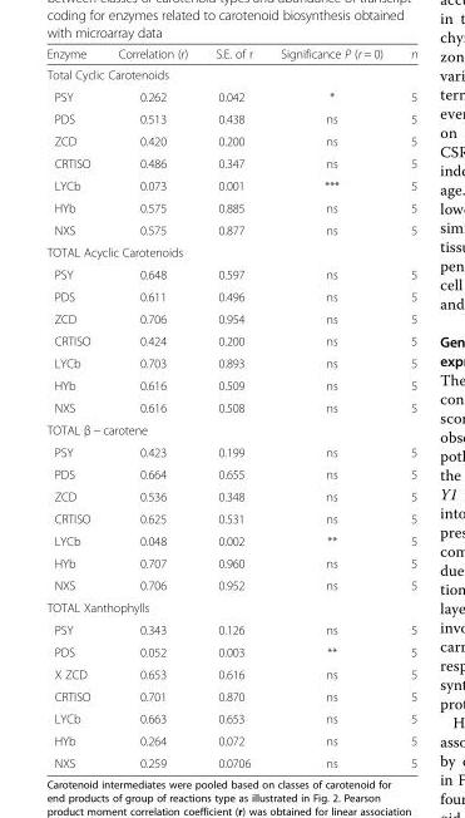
<table><thead><tr><td>Enzyme</td><td>Correlation (r)</td><td>S.E. of r</td><td>Significance P (r = 0)</td><td>n</td></tr></thead><tbody><tr><td colspan="5">Total Cyclic Carotenoids</td></tr><tr><td>PSY</td><td>0.262</td><td>0.042</td><td>*</td><td>5</td></tr><tr><td>PDS</td><td>0.513</td><td>0.438</td><td>ns</td><td>5</td></tr><tr><td>ZCD</td><td>0.420</td><td>0.200</td><td>ns</td><td>5</td></tr><tr><td>CRTISO</td><td>0.486</td><td>0.347</td><td>ns</td><td>5</td></tr><tr><td>LYCb</td><td>0.073</td><td>0.001</td><td>***</td><td>5</td></tr><tr><td>HYb</td><td>0.575</td><td>0.885</td><td>ns</td><td>5</td></tr><tr><td>NXS</td><td>0.575</td><td>0.877</td><td>ns</td><td>5</td></tr><tr><td colspan="5">TOTAL Acyclic Carotenoids</td></tr><tr><td>PSY</td><td>0.648</td><td>0.597</td><td>ns</td><td>5</td></tr><tr><td>PDS</td><td>0.611</td><td>0.496</td><td>ns</td><td>5</td></tr><tr><td>ZCD</td><td>0.706</td><td>0.954</td><td>ns</td><td>5</td></tr><tr><td>CRTISO</td><td>0.424</td><td>0.200</td><td>ns</td><td>5</td></tr><tr><td>LYCb</td><td>0.703</td><td>0.893</td><td>ns</td><td>5</td></tr><tr><td>HYb</td><td>0.616</td><td>0.509</td><td>ns</td><td>5</td></tr><tr><td>NXS</td><td>0.616</td><td>0.508</td><td>ns</td><td>5</td></tr><tr><td colspan="5">TOTAL β − carotene</td></tr><tr><td>PSY</td><td>0.423</td><td>0.199</td><td>ns</td><td>5</td></tr><tr><td>PDS</td><td>0.664</td><td>0.655</td><td>ns</td><td>5</td></tr><tr><td>ZCD</td><td>0.536</td><td>0.348</td><td>ns</td><td>5</td></tr><tr><td>CRTISO</td><td>0.625</td><td>0.531</td><td>ns</td><td>5</td></tr><tr><td>LYCb</td><td>0.048</td><td>0.002</td><td>**</td><td>5</td></tr><tr><td>HYb</td><td>0.707</td><td>0.960</td><td>ns</td><td>5</td></tr><tr><td>NXS</td><td>0.706</td><td>0.952</td><td>ns</td><td>5</td></tr><tr><td colspan="5">TOTAL Xanthophylls</td></tr><tr><td>PSY</td><td>0.343</td><td>0.126</td><td>ns</td><td>5</td></tr><tr><td>PDS</td><td>0.052</td><td>0.003</td><td>**</td><td>5</td></tr><tr><td>X ZCD</td><td>0.653</td><td>0.616</td><td>ns</td><td>5</td></tr><tr><td>CRTISO</td><td>0.701</td><td>0.870</td><td>ns</td><td>5</td></tr><tr><td>LYCb</td><td>0.663</td><td>0.653</td><td>ns</td><td>5</td></tr><tr><td>HYb</td><td>0.264</td><td>0.072</td><td>ns</td><td>5</td></tr><tr><td>NXS</td><td>0.259</td><td>0.0706</td><td>ns</td><td>5</td></tr></tbody></table>